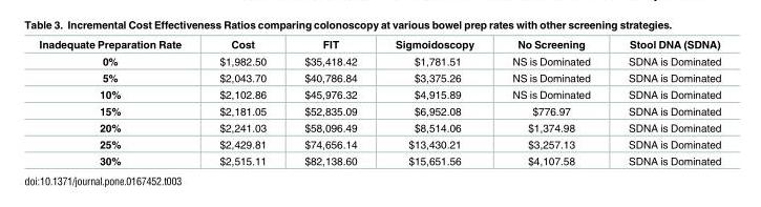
<table><thead><tr><td>Inadequate Preparation Rate</td><td>Cost</td><td>FIT</td><td>Sigmoidoscopy</td><td>No Screening</td><td>Stool DNA (SDNA)</td></tr></thead><tbody><tr><td>0%</td><td>$1,982.50</td><td>$35,418.42</td><td>$1,781.51</td><td>NS is Dominated</td><td>SDNA is Dominated</td></tr><tr><td>5%</td><td>$2,043.70</td><td>$40,786.84</td><td>$3,375.26</td><td>NS is Dominated</td><td>SDNA is Dominated</td></tr><tr><td>10%</td><td>$2,102.86</td><td>$45,976.32</td><td>$4,915.89</td><td>NS is Dominated</td><td>SDNA is Dominated</td></tr><tr><td>15%</td><td>$2,181.05</td><td>$52,835.09</td><td>$6,952.08</td><td>$776.97</td><td>SDNA is Dominated</td></tr><tr><td>20%</td><td>$2,241.03</td><td>$58,096.49</td><td>$8,514.06</td><td>$1,374.98</td><td>SDNA is Dominated</td></tr><tr><td>25%</td><td>$2,429.81</td><td>$74,656.14</td><td>$13,430.21</td><td>$3,257.13</td><td>SDNA is Dominated</td></tr><tr><td>30%</td><td>$2,515.11</td><td>$82,138.60</td><td>$15,651.56</td><td>$4,107.58</td><td>SDNA is Dominated</td></tr></tbody></table>